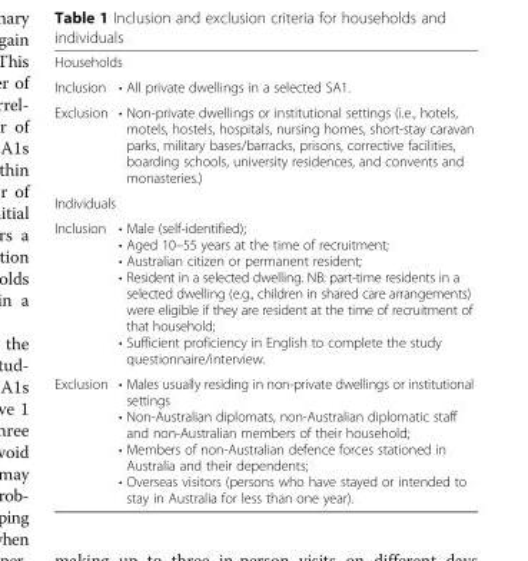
<table><tbody><tr><td colspan="2">Households</td></tr><tr><td>Inclusion</td><td>• All private dwellings in a selected SA1.</td></tr><tr><td>Exclusion</td><td>• Non-private dwellings or institutional settings (i.e., hotels, motels, hostels, hospitals, nursing homes, short-stay caravan parks, military bases/barracks, prisons, corrective facilities, boarding schools, university residences, and convents and monasteries.)</td></tr><tr><td colspan="2">Individuals</td></tr><tr><td>Inclusion</td><td>• Male (self-identified); • Aged 10–55 years at the time of recruitment; • Australian citizen or permanent resident; • Resident in a selected dwelling. NB: part-time residents in a selected dwelling (e.g., children in shared care arrangements) were eligible if they are resident at the time of recruitment of that household; • Sufficient proficiency in English to complete the study questionnaire/interview.</td></tr><tr><td>Exclusion</td><td>• Males usually residing in non-private dwellings or institutional settings • Non-Australian diplomats, non-Australian diplomatic staff and non-Australian members of their household; • Members of non-Australian defence forces stationed in Australia and their dependents; • Overseas visitors (persons who have stayed or intended to stay in Australia for less than one year).</td></tr></tbody></table>